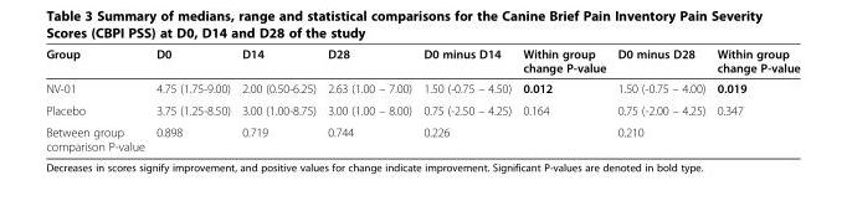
<table><thead><tr><td>Group</td><td>D0</td><td>D14</td><td>D28</td><td>D0 minus D14</td><td>Within group change P-value</td><td>D0 minus D28</td><td>Within group change P-value</td></tr></thead><tbody><tr><td>NV-01</td><td>4.75 (1.75-9.00)</td><td>2.00 (0.50-6.25)</td><td>2.63 (1.00 – 7.00)</td><td>1.50 (-0.75 – 4.50)</td><td>0.012</td><td>1.50 (-0.75 – 4.00)</td><td>0.019</td></tr><tr><td>Placebo</td><td>3.75 (1.25-8.50)</td><td>3.00 (1.00-8.75)</td><td>3.00 (1.00 – 8.00)</td><td>0.75 (-2.50 – 4.25)</td><td>0.164</td><td>0.75 (-2.00 – 4.25)</td><td>0.347</td></tr><tr><td>Between group comparison P-value</td><td>0.898</td><td>0.719</td><td>0.744</td><td>0.226</td><td></td><td>0.210</td><td></td></tr></tbody></table>